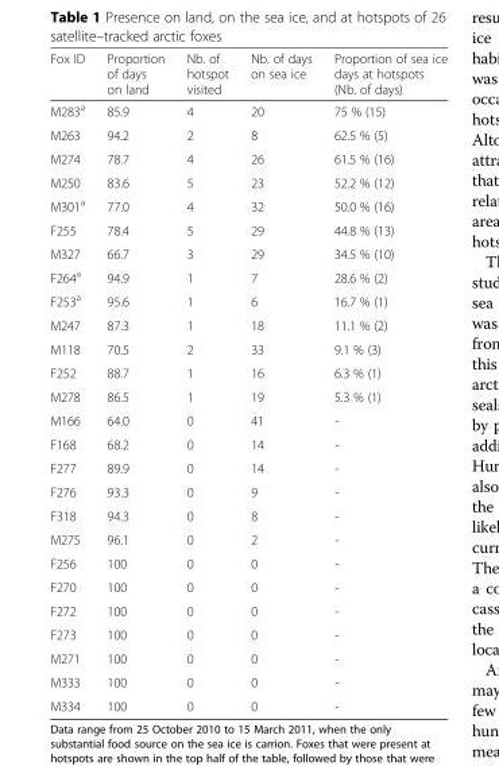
<table><thead><tr><td>Fox ID</td><td>Proportion of days on land</td><td>Nb. of hotspot visited</td><td>Nb. of days on sea ice</td><td>Proportion of sea ice days at hotspots (Nb. of days)</td></tr></thead><tbody><tr><td>M283<sup>a</sup></td><td>85.9</td><td>4</td><td>20</td><td>75 % (15)</td></tr><tr><td>M263</td><td>94.2</td><td>2</td><td>8</td><td>62.5 % (5)</td></tr><tr><td>M274</td><td>78.7</td><td>4</td><td>26</td><td>61.5 % (16)</td></tr><tr><td>M250</td><td>83.6</td><td>5</td><td>23</td><td>52.2 % (12)</td></tr><tr><td>M301<sup>a</sup></td><td>77.0</td><td>4</td><td>32</td><td>50.0 % (16)</td></tr><tr><td>F255</td><td>78.4</td><td>5</td><td>29</td><td>44.8 % (13)</td></tr><tr><td>M327</td><td>66.7</td><td>3</td><td>29</td><td>34.5 % (10)</td></tr><tr><td>F264<sup>a</sup></td><td>94.9</td><td>1</td><td>7</td><td>28.6 % (2)</td></tr><tr><td>F253<sup>a</sup></td><td>95.6</td><td>1</td><td>6</td><td>16.7 % (1)</td></tr><tr><td>M247</td><td>87.3</td><td>1</td><td>18</td><td>11.1 % (2)</td></tr><tr><td>M118</td><td>70.5</td><td>2</td><td>33</td><td>9.1 % (3)</td></tr><tr><td>F252</td><td>88.7</td><td>1</td><td>16</td><td>6.3 % (1)</td></tr><tr><td>M278</td><td>86.5</td><td>1</td><td>19</td><td>5.3 % (1)</td></tr><tr><td>M166</td><td>64.0</td><td>0</td><td>41</td><td>˗</td></tr><tr><td>F168</td><td>68.2</td><td>0</td><td>14</td><td>˗</td></tr><tr><td>F277</td><td>89.9</td><td>0</td><td>14</td><td>˗</td></tr><tr><td>F276</td><td>93.3</td><td>0</td><td>9</td><td>˗</td></tr><tr><td>F318</td><td>94.3</td><td>0</td><td>8</td><td>˗</td></tr><tr><td>M275</td><td>96.1</td><td>0</td><td>2</td><td>˗</td></tr><tr><td>F256</td><td>100</td><td>0</td><td>0</td><td>˗</td></tr><tr><td>F270</td><td>100</td><td>0</td><td>0</td><td>˗</td></tr><tr><td>F272</td><td>100</td><td>0</td><td>0</td><td>˗</td></tr><tr><td>F273</td><td>100</td><td>0</td><td>0</td><td>˗</td></tr><tr><td>M271</td><td>100</td><td>0</td><td>0</td><td>˗</td></tr><tr><td>M333</td><td>100</td><td>0</td><td>0</td><td>˗</td></tr><tr><td>M334</td><td>100</td><td>0</td><td>0</td><td>˗</td></tr></tbody></table>